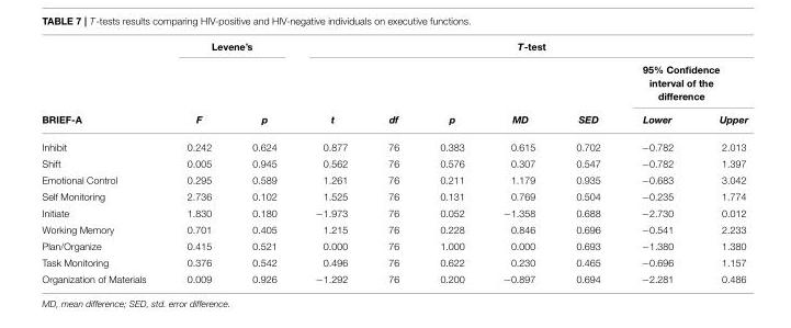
<table><thead><tr><td rowspan="3">BRIEF-A</td><td colspan="2">Levene’s</td><td colspan="7">T-test</td></tr><tr><td rowspan="2">F</td><td rowspan="2">p</td><td rowspan="2">t</td><td rowspan="2">df</td><td rowspan="2">p</td><td rowspan="2">MD</td><td rowspan="2">SED</td><td colspan="2">95% Confidence interval of the difference</td></tr><tr><td>Lower</td><td>Upper</td></tr></thead><tbody><tr><td>Inhibit</td><td>0.242</td><td>0.624</td><td>0.877</td><td>76</td><td>0.383</td><td>0.615</td><td>0.702</td><td>−0.782</td><td>2.013</td></tr><tr><td>Shift</td><td>0.005</td><td>0.945</td><td>0.562</td><td>76</td><td>0.576</td><td>0.307</td><td>0.547</td><td>−0.782</td><td>1.397</td></tr><tr><td>Emotional Control</td><td>0.295</td><td>0.589</td><td>1.261</td><td>76</td><td>0.211</td><td>1.179</td><td>0.935</td><td>−0.683</td><td>3.042</td></tr><tr><td>Self Monitoring</td><td>2.736</td><td>0.102</td><td>1.525</td><td>76</td><td>0.131</td><td>0.769</td><td>0.504</td><td>−0.235</td><td>1.774</td></tr><tr><td>Initiate</td><td>1.830</td><td>0.180</td><td>−1.973</td><td>76</td><td>0.052</td><td>−1.358</td><td>0.688</td><td>−2.730</td><td>0.012</td></tr><tr><td>Working Memory</td><td>0.701</td><td>0.405</td><td>1.215</td><td>76</td><td>0.228</td><td>0.846</td><td>0.696</td><td>−0.541</td><td>2.233</td></tr><tr><td>Plan/Organize</td><td>0.415</td><td>0.521</td><td>0.000</td><td>76</td><td>1.000</td><td>0.000</td><td>0.693</td><td>−1.380</td><td>1.380</td></tr><tr><td>Task Monitoring</td><td>0.376</td><td>0.542</td><td>0.496</td><td>76</td><td>0.622</td><td>0.230</td><td>0.465</td><td>−0.696</td><td>1.157</td></tr><tr><td>Organization of Materials</td><td>0.009</td><td>0.926</td><td>−1.292</td><td>76</td><td>0.200</td><td>−0.897</td><td>0.694</td><td>−2.281</td><td>0.486</td></tr></tbody></table>